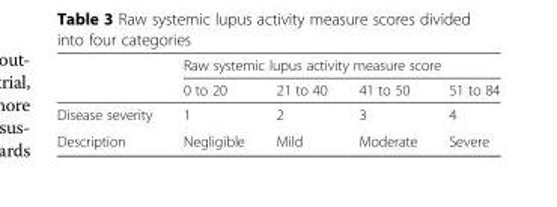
<table><thead><tr><td rowspan="2"></td><td colspan="4">Raw systemic lupus activity measure score</td></tr><tr><td>0 to 20</td><td>21 to 40</td><td>41 to 50</td><td>51 to 84</td></tr></thead><tbody><tr><td>Disease severity</td><td>1</td><td>2</td><td>3</td><td>4</td></tr><tr><td>Description</td><td>Negligible</td><td>Mild</td><td>Moderate</td><td>Severe</td></tr></tbody></table>